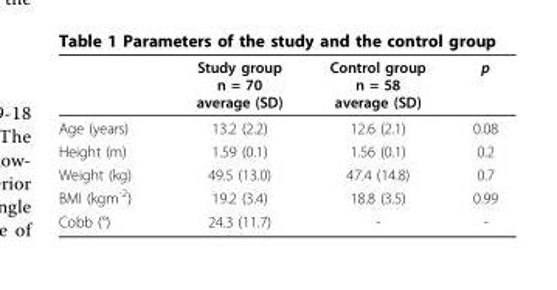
<table><thead><tr><td></td><td>Study group n = 70 average (SD)</td><td>Control group n = 58 average (SD)</td><td>p</td></tr></thead><tbody><tr><td>Age (years)</td><td>13.2 (2.2)</td><td>12.6 (2.1)</td><td>0.08</td></tr><tr><td>Height (m)</td><td>1.59 (0.1)</td><td>1.56 (0.1)</td><td>0.2</td></tr><tr><td>Weight (kg)</td><td>49.5 (13.0)</td><td>47.4 (14.8)</td><td>0.7</td></tr><tr><td>BMI (kgm<sup>-2</sup>)</td><td>19.2 (3.4)</td><td>18.8 (3.5)</td><td>0.99</td></tr><tr><td>Cobb (°)</td><td>24.3 (11.7)</td><td>-</td><td>-</td></tr></tbody></table>